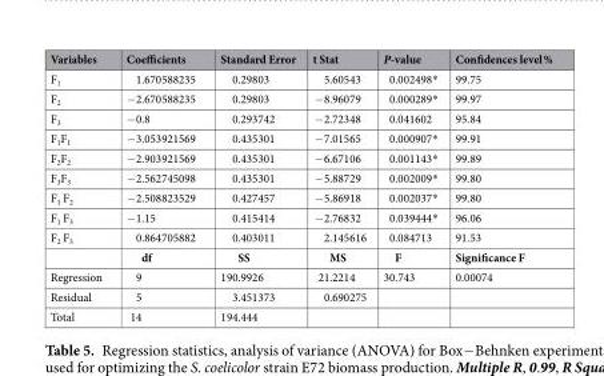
<table><thead><tr><td>Variables</td><td>Coefficients</td><td>Standard Error</td><td>t Stat</td><td>P-value</td><td>Confidences level %</td></tr></thead><tbody><tr><td>F<sub>1</sub></td><td>1.670588235</td><td>0.29803</td><td>5.60543</td><td>0.002498*</td><td>99.75</td></tr><tr><td>F<sub>2</sub></td><td>−2.670588235</td><td>0.29803</td><td>−8.96079</td><td>0.000289*</td><td>99.97</td></tr><tr><td>F<sub>3</sub></td><td>−0.8</td><td>0.293742</td><td>−2.72348</td><td>0.041602</td><td>95.84</td></tr><tr><td>F<sub>1</sub>F<sub>1</sub></td><td>−3.053921569</td><td>0.435301</td><td>−7.01565</td><td>0.000907*</td><td>99.91</td></tr><tr><td>F<sub>2</sub>F<sub>2</sub></td><td>−2.903921569</td><td>0.435301</td><td>−6.67106</td><td>0.001143*</td><td>99.89</td></tr><tr><td>F<sub>3</sub>F<sub>3</sub></td><td>−2.562745098</td><td>0.435301</td><td>−5.88729</td><td>0.002009*</td><td>99.80</td></tr><tr><td>F<sub>1</sub> F<sub>2</sub></td><td>−2.508823529</td><td>0.427457</td><td>−5.86918</td><td>0.002037*</td><td>99.80</td></tr><tr><td>F<sub>1</sub> F<sub>3</sub></td><td>−1.15</td><td>0.415414</td><td>−2.76832</td><td>0.039444*</td><td>96.06</td></tr><tr><td rowspan="2">F<sub>2</sub> F<sub>3</sub></td><td>0.864705882</td><td>0.403011</td><td>2.145616</td><td>0.084713</td><td>91.53</td></tr><tr><td>df</td><td>SS</td><td>MS</td><td>F</td><td>Significance F</td></tr><tr><td>Regression</td><td>9</td><td>190.9926</td><td>21.2214</td><td>30.743</td><td>0.00074</td></tr><tr><td>Residual</td><td>5</td><td>3.451373</td><td>0.690275</td><td></td><td></td></tr><tr><td>Total</td><td>14</td><td>194.444</td><td></td><td></td><td></td></tr></tbody></table>